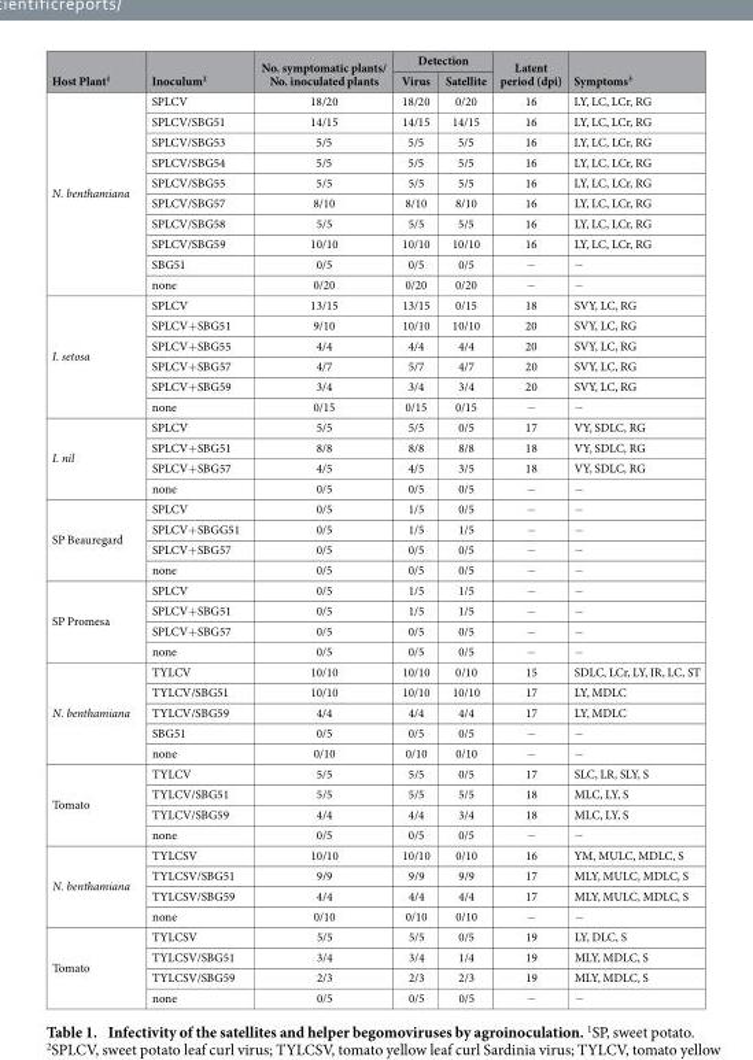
<table><thead><tr><td rowspan="2">Host Plant<sup>1</sup></td><td rowspan="2">Inoculum<sup>2</sup></td><td rowspan="2">No. symptomatic plants/ No. inoculated plants</td><td colspan="2">Detection</td><td rowspan="2">Latent period (dpi)</td><td rowspan="2">Symptoms<sup>3</sup></td></tr><tr><td>Virus</td><td>Satellite</td></tr></thead><tbody><tr><td rowspan="10">N. benthamiana</td><td>SPLCV</td><td>18/20</td><td>18/20</td><td>0/20</td><td>16</td><td>LY, LC, LCr, RG</td></tr><tr><td>SPLCV/SBG51</td><td>14/15</td><td>14/15</td><td>14/15</td><td>16</td><td>LY, LC, LCr, RG</td></tr><tr><td>SPLCV/SBG53</td><td>5/5</td><td>5/5</td><td>5/5</td><td>16</td><td>LY, LC, LCr, RG</td></tr><tr><td>SPLCV/SBG54</td><td>5/5</td><td>5/5</td><td>5/5</td><td>16</td><td>LY, LC, LCr, RG</td></tr><tr><td>SPLCV/SBG55</td><td>5/5</td><td>5/5</td><td>5/5</td><td>16</td><td>LY, LC, LCr, RG</td></tr><tr><td>SPLCV/SBG57</td><td>8/10</td><td>8/10</td><td>8/10</td><td>16</td><td>LY, LC, LCr, RG</td></tr><tr><td>SPLCV/SBG58</td><td>5/5</td><td>5/5</td><td>5/5</td><td>16</td><td>LY, LC, LCr, RG</td></tr><tr><td>SPLCV/SBG59</td><td>10/10</td><td>10/10</td><td>10/10</td><td>16</td><td>LY, LC, LCr, RG</td></tr><tr><td>SBG51</td><td>0/5</td><td>0/5</td><td>0/5</td><td>−</td><td>−</td></tr><tr><td>none</td><td>0/20</td><td>0/20</td><td>0/20</td><td>−</td><td>−</td></tr><tr><td rowspan="6">I. setosa</td><td>SPLCV</td><td>13/15</td><td>13/15</td><td>0/15</td><td>18</td><td>SVY, LC, RG</td></tr><tr><td>SPLCV+ SBG51</td><td>9/10</td><td>10/10</td><td>10/10</td><td>20</td><td>SVY, LC, RG</td></tr><tr><td>SPLCV+ SBG55</td><td>4/4</td><td>4/4</td><td>4/4</td><td>20</td><td>SVY, LC, RG</td></tr><tr><td>SPLCV+ SBG57</td><td>4/7</td><td>5/7</td><td>4/7</td><td>20</td><td>SVY, LC, RG</td></tr><tr><td>SPLCV+ SBG59</td><td>3/4</td><td>3/4</td><td>3/4</td><td>20</td><td>SVY, LC, RG</td></tr><tr><td>none</td><td>0/15</td><td>0/15</td><td>0/15</td><td>−</td><td>−</td></tr><tr><td rowspan="4">I. nil</td><td>SPLCV</td><td>5/5</td><td>5/5</td><td>0/5</td><td>17</td><td>VY, SDLC, RG</td></tr><tr><td>SPLCV+ SBG51</td><td>8/8</td><td>8/8</td><td>8/8</td><td>18</td><td>VY, SDLC, RG</td></tr><tr><td>SPLCV+ SBG57</td><td>4/5</td><td>4/5</td><td>3/5</td><td>18</td><td>VY, SDLC, RG</td></tr><tr><td>none</td><td>0/5</td><td>0/5</td><td>0/5</td><td>−</td><td>−</td></tr><tr><td rowspan="4">SP Beauregard</td><td>SPLCV</td><td>0/5</td><td>1/5</td><td>0/5</td><td>−</td><td>−</td></tr><tr><td>SPLCV+ SBGG51</td><td>0/5</td><td>1/5</td><td>1/5</td><td>−</td><td>−</td></tr><tr><td>SPLCV+ SBG57</td><td>0/5</td><td>0/5</td><td>0/5</td><td>−</td><td>−</td></tr><tr><td>none</td><td>0/5</td><td>0/5</td><td>0/5</td><td>−</td><td>−</td></tr><tr><td rowspan="4">SP Promesa</td><td>SPLCV</td><td>0/5</td><td>1/5</td><td>1/5</td><td>−</td><td>−</td></tr><tr><td>SPLCV+ SBG51</td><td>0/5</td><td>1/5</td><td>1/5</td><td>−</td><td>−</td></tr><tr><td>SPLCV+ SBG57</td><td>0/5</td><td>0/5</td><td>0/5</td><td>−</td><td>−</td></tr><tr><td>none</td><td>0/5</td><td>0/5</td><td>0/5</td><td>−</td><td>−</td></tr><tr><td rowspan="5">N. benthamiana</td><td>TYLCV</td><td>10/10</td><td>10/10</td><td>0/10</td><td>15</td><td>SDLC, LCr, LY, IR, LC, ST</td></tr><tr><td>TYLCV/SBG51</td><td>10/10</td><td>10/10</td><td>10/10</td><td>17</td><td>LY, MDLC</td></tr><tr><td>TYLCV/SBG59</td><td>4/4</td><td>4/4</td><td>4/4</td><td>17</td><td>LY, MDLC</td></tr><tr><td>SBG51</td><td>0/5</td><td>0/5</td><td>0/5</td><td>−</td><td>−</td></tr><tr><td>none</td><td>0/10</td><td>0/10</td><td>0/10</td><td>−</td><td>−</td></tr><tr><td rowspan="4">Tomato</td><td>TYLCV</td><td>5/5</td><td>5/5</td><td>0/5</td><td>17</td><td>SLC, LR, SLY, S</td></tr><tr><td>TYLCV/SBG51</td><td>5/5</td><td>5/5</td><td>5/5</td><td>18</td><td>MLC, LY, S</td></tr><tr><td>TYLCV/SBG59</td><td>4/4</td><td>4/4</td><td>3/4</td><td>18</td><td>MLC, LY, S</td></tr><tr><td>none</td><td>0/5</td><td>0/5</td><td>0/5</td><td>−</td><td>−</td></tr><tr><td rowspan="4">N. benthamiana</td><td>TYLCSV</td><td>10/10</td><td>10/10</td><td>0/10</td><td>16</td><td>YM, MULC, MDLC, S</td></tr><tr><td>TYLCSV/SBG51</td><td>9/9</td><td>9/9</td><td>9/9</td><td>17</td><td>MLY, MULC, MDLC, S</td></tr><tr><td>TYLCSV/SBG59</td><td>4/4</td><td>4/4</td><td>4/4</td><td>17</td><td>MLY, MULC, MDLC, S</td></tr><tr><td>none</td><td>0/10</td><td>0/10</td><td>0/10</td><td>−</td><td>−</td></tr><tr><td rowspan="4">Tomato</td><td>TYLCSV</td><td>5/5</td><td>5/5</td><td>0/5</td><td>19</td><td>LY, DLC, S</td></tr><tr><td>TYLCSV/SBG51</td><td>3/4</td><td>3/4</td><td>1/4</td><td>19</td><td>MLY, MDLC, S</td></tr><tr><td>TYLCSV/SBG59</td><td>2/3</td><td>2/3</td><td>2/3</td><td>19</td><td>MLY, MDLC, S</td></tr><tr><td>none</td><td>0/5</td><td>0/5</td><td>0/5</td><td>−</td><td>−</td></tr></tbody></table>